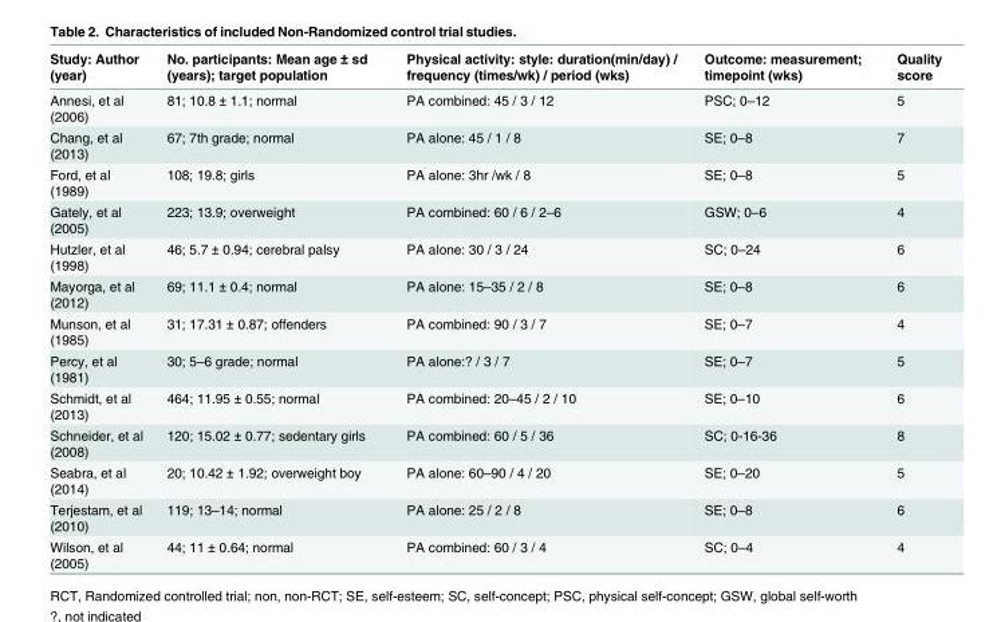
<table><thead><tr><td>Study: Author (year)</td><td>No. participants: Mean age ± sd (years); target population</td><td>Physical activity: style: duration(min/day) / frequency (times/wk) / period (wks)</td><td>Outcome: measurement; timepoint (wks)</td><td>Quality score</td></tr></thead><tbody><tr><td>Annesi, et al (2006)</td><td>81; 10.8 ± 1.1; normal</td><td>PA combined: 45 / 3 / 12</td><td>PSC; 0–12</td><td>5</td></tr><tr><td>Chang, et al (2013)</td><td>67; 7th grade; normal</td><td>PA alone: 45 / 1 / 8</td><td>SE; 0–8</td><td>7</td></tr><tr><td>Ford, et al (1989)</td><td>108; 19.8; girls</td><td>PA alone: 3hr /wk / 8</td><td>SE; 0–8</td><td>5</td></tr><tr><td>Gately, et al (2005)</td><td>223; 13.9; overweight</td><td>PA combined: 60 / 6 / 2–6</td><td>GSW; 0–6</td><td>4</td></tr><tr><td>Hutzler, et al (1998)</td><td>46; 5.7 ± 0.94; cerebral palsy</td><td>PA alone: 30 / 3 / 24</td><td>SC; 0–24</td><td>6</td></tr><tr><td>Mayorga, et al (2012)</td><td>69; 11.1 ± 0.4; normal</td><td>PA alone: 15–35 / 2 / 8</td><td>SE; 0–8</td><td>6</td></tr><tr><td>Munson, et al (1985)</td><td>31; 17.31 ± 0.87; offenders</td><td>PA combined: 90 / 3 / 7</td><td>SE; 0–7</td><td>4</td></tr><tr><td>Percy, et al (1981)</td><td>30; 5–6 grade; normal</td><td>PA alone:? / 3 / 7</td><td>SE; 0–7</td><td>5</td></tr><tr><td>Schmidt, et al (2013)</td><td>464; 11.95 ± 0.55; normal</td><td>PA combined: 20–45 / 2 / 10</td><td>SE; 0–10</td><td>6</td></tr><tr><td>Schneider, et al (2008)</td><td>120; 15.02 ± 0.77; sedentary girls</td><td>PA combined: 60 / 5 / 36</td><td>SC; 0-16-36</td><td>8</td></tr><tr><td>Seabra, et al (2014)</td><td>20; 10.42 ± 1.92; overweight boy</td><td>PA alone: 60–90 / 4 / 20</td><td>SE; 0–20</td><td>5</td></tr><tr><td>Terjestam, et al (2010)</td><td>119; 13–14; normal</td><td>PA alone: 25 / 2 / 8</td><td>SE; 0–8</td><td>6</td></tr><tr><td>Wilson, et al (2005)</td><td>44; 11 ± 0.64; normal</td><td>PA combined: 60 / 3 / 4</td><td>SC; 0–4</td><td>4</td></tr></tbody></table>